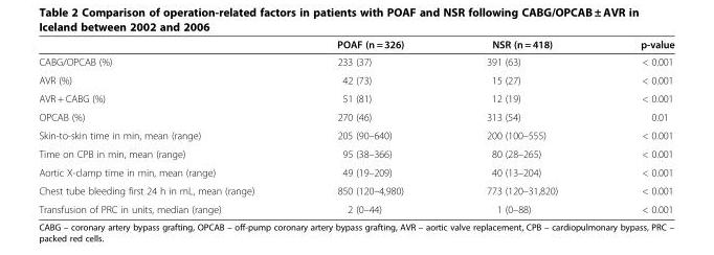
<table><thead><tr><td></td><td>POAF (n = 326)</td><td>NSR (n = 418)</td><td>p-value</td></tr></thead><tbody><tr><td>CABG/OPCAB (%)</td><td>233 (37)</td><td>391 (63)</td><td>&lt; 0.001</td></tr><tr><td>AVR (%)</td><td>42 (73)</td><td>15 (27)</td><td>&lt; 0.001</td></tr><tr><td>AVR + CABG (%)</td><td>51 (81)</td><td>12 (19)</td><td>&lt; 0.001</td></tr><tr><td>OPCAB (%)</td><td>270 (46)</td><td>313 (54)</td><td>0.01</td></tr><tr><td>Skin-to-skin time in min, mean (range)</td><td>205 (90–640)</td><td>200 (100–555)</td><td>&lt; 0.001</td></tr><tr><td>Time on CPB in min, mean (range)</td><td>95 (38–366)</td><td>80 (28–265)</td><td>&lt; 0.001</td></tr><tr><td>Aortic X-clamp time in min, mean (range)</td><td>49 (19–209)</td><td>40 (13–204)</td><td>&lt; 0.001</td></tr><tr><td>Chest tube bleeding first 24 h in mL, mean (range)</td><td>850 (120–4,980)</td><td>773 (120–31,820)</td><td>&lt; 0.001</td></tr><tr><td>Transfusion of PRC in units, median (range)</td><td>2 (0–44)</td><td>1 (0–88)</td><td>&lt; 0.001</td></tr></tbody></table>